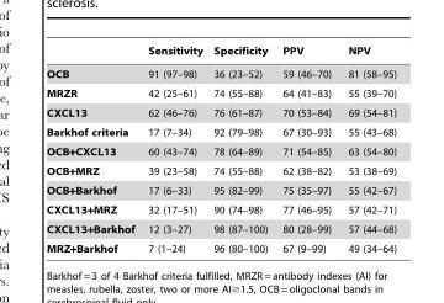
<table><thead><tr><td></td><td>Sensitivity</td><td>Specificity</td><td>PPV</td><td>NPV</td></tr></thead><tbody><tr><td>OCB</td><td>91 (97–98)</td><td>36 (23–52)</td><td>59 (46–70)</td><td>81 (58–95)</td></tr><tr><td>MRZR</td><td>42 (25–61)</td><td>74 (55–88)</td><td>64 (41–83)</td><td>55 (39–70)</td></tr><tr><td>CXCL13</td><td>62 (46–76)</td><td>76 (61–87)</td><td>70 (53–84)</td><td>69 (54–81)</td></tr><tr><td>Barkhof criteria</td><td>17 (7–34)</td><td>92 (79–98)</td><td>67 (30–93)</td><td>55 (43–68)</td></tr><tr><td>OCB+CXCL13</td><td>60 (43–74)</td><td>78 (64–89)</td><td>71 (54–85)</td><td>63 (54–80)</td></tr><tr><td>OCB+MRZ</td><td>39 (23–58)</td><td>74 (55–88)</td><td>62 (38–82)</td><td>53 (38–69)</td></tr><tr><td>OCB+Barkhof</td><td>17 (6–33)</td><td>95 (82–99)</td><td>75 (35–97)</td><td>55 (42–67)</td></tr><tr><td>CXCL13+MRZ</td><td>32 (17–51)</td><td>90 (74–98)</td><td>77 (46–95)</td><td>57 (42–71)</td></tr><tr><td>CXCL13+Barkhof</td><td>12 (3–27)</td><td>98 (87–100)</td><td>80 (28–99)</td><td>57 (44–68)</td></tr><tr><td>MRZ+Barkhof</td><td>7 (1–24)</td><td>96 (80–100)</td><td>67 (9–99)</td><td>49 (34–64)</td></tr></tbody></table>